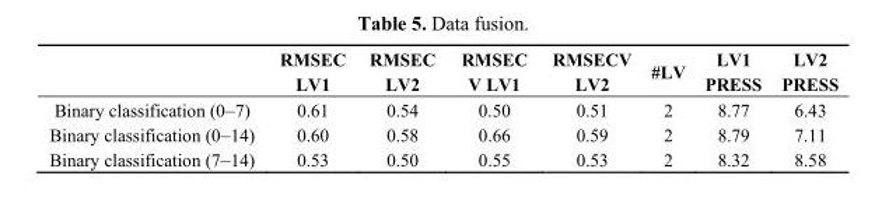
<table><thead><tr><td></td><td>RMSEC LV1</td><td>RMSEC LV2</td><td>RMSEC V LV1</td><td>RMSECV LV2</td><td>#LV</td><td>LV1 PRESS</td><td>LV2 PRESS</td></tr></thead><tbody><tr><td>Binary classification (0–7)</td><td>0.61</td><td>0.54</td><td>0.50</td><td>0.51</td><td>2</td><td>8.77</td><td>6.43</td></tr><tr><td>Binary classification (0–14)</td><td>0.60</td><td>0.58</td><td>0.66</td><td>0.59</td><td>2</td><td>8.79</td><td>7.11</td></tr><tr><td>Binary classification (7–14)</td><td>0.53</td><td>0.50</td><td>0.55</td><td>0.53</td><td>2</td><td>8.32</td><td>8.58</td></tr></tbody></table>